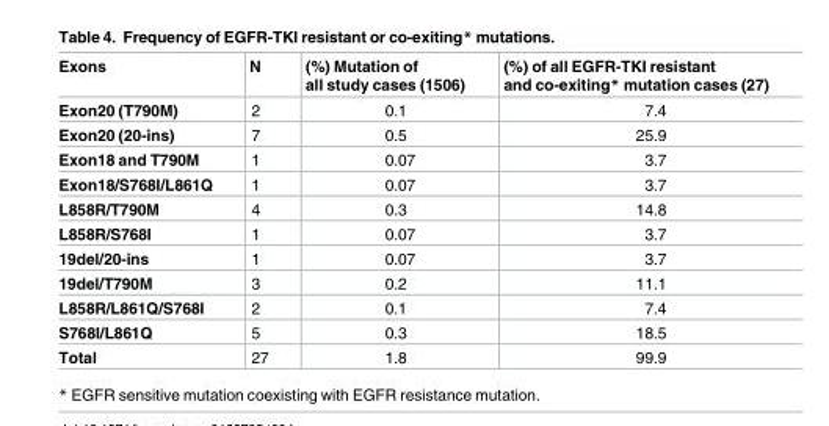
<table><thead><tr><td>Exons</td><td>N</td><td>(%) Mutation of all study cases (1506)</td><td>(%) of all EGFR-TKI resistant and co-exiting* mutation cases (27)</td></tr></thead><tbody><tr><td>Exon20 (T790M)</td><td>2</td><td>0.1</td><td>7.4</td></tr><tr><td>Exon20 (20-ins)</td><td>7</td><td>0.5</td><td>25.9</td></tr><tr><td>Exon18 and T790M</td><td>1</td><td>0.07</td><td>3.7</td></tr><tr><td>Exon18/S768I/L861Q</td><td>1</td><td>0.07</td><td>3.7</td></tr><tr><td>L858R/T790M</td><td>4</td><td>0.3</td><td>14.8</td></tr><tr><td>L858R/S768I</td><td>1</td><td>0.07</td><td>3.7</td></tr><tr><td>19del/20-ins</td><td>1</td><td>0.07</td><td>3.7</td></tr><tr><td>19del/T790M</td><td>3</td><td>0.2</td><td>11.1</td></tr><tr><td>L858R/L861Q/S768I</td><td>2</td><td>0.1</td><td>7.4</td></tr><tr><td>S768I/L861Q</td><td>5</td><td>0.3</td><td>18.5</td></tr><tr><td>Total</td><td>27</td><td>1.8</td><td>99.9</td></tr></tbody></table>